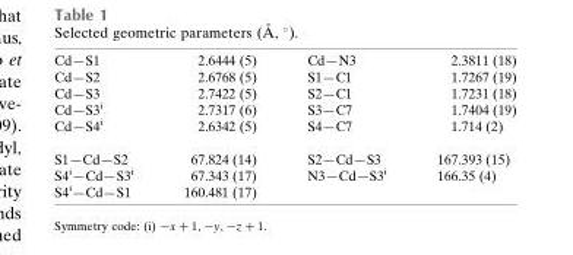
<table><tbody><tr><td>Cd—S1</td><td>2.6444 (5)</td><td>Cd—N3</td><td>2.3811 (18)</td></tr><tr><td>Cd—S2</td><td>2.6768 (5)</td><td>S1—C1</td><td>1.7267 (19)</td></tr><tr><td>Cd—S3</td><td>2.7422 (5)</td><td>S2—C1</td><td>1.7231 (18)</td></tr><tr><td>Cd—S3<sup>i</sup></td><td>2.7317 (6)</td><td>S3—C7</td><td>1.7404 (19)</td></tr><tr><td>Cd—S4<sup>i</sup></td><td>2.6342 (5)</td><td>S4—C7</td><td>1.714 (2)</td></tr><tr><td>S1—Cd—S2</td><td>67.824 (14)</td><td>S2—Cd—S3</td><td>167.393 (15)</td></tr><tr><td>S4<sup>i</sup>—Cd—S3<sup>i</sup></td><td>67.343 (17)</td><td>N3—Cd—S3<sup>i</sup></td><td>166.35 (4)</td></tr><tr><td>S4<sup>i</sup>—Cd—S1</td><td>160.481 (17)</td><td></td><td></td></tr></tbody></table>